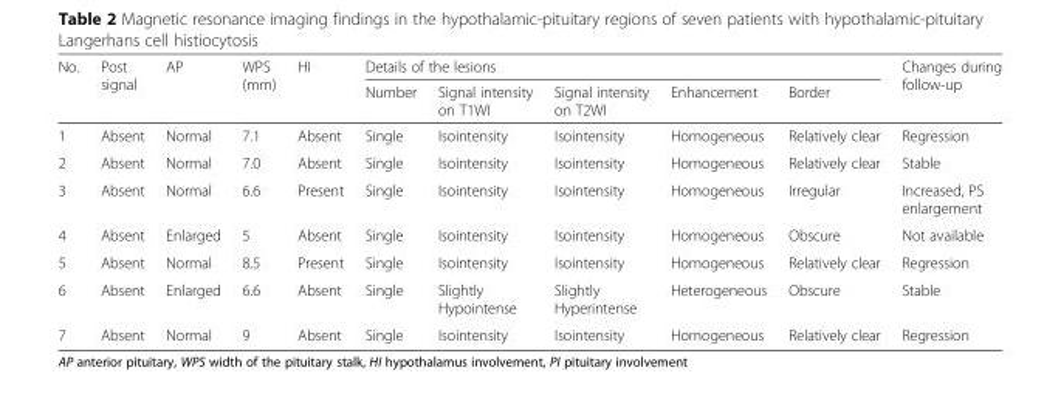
<table><thead><tr><td rowspan="2">No.</td><td rowspan="2">Post signal</td><td rowspan="2">AP</td><td rowspan="2">WPS (mm)</td><td rowspan="2">HI</td><td colspan="5">Details of the lesions</td><td rowspan="2">Changes during follow-up</td></tr><tr><td>Number</td><td>Signal intensity on T1WI</td><td>Signal intensity on T2WI</td><td>Enhancement</td><td>Border</td></tr></thead><tbody><tr><td>1</td><td>Absent</td><td>Normal</td><td>7.1</td><td>Absent</td><td>Single</td><td>Isointensity</td><td>Isointensity</td><td>Homogeneous</td><td>Relatively clear</td><td>Regression</td></tr><tr><td>2</td><td>Absent</td><td>Normal</td><td>7.0</td><td>Absent</td><td>Single</td><td>Isointensity</td><td>Isointensity</td><td>Homogeneous</td><td>Relatively clear</td><td>Stable</td></tr><tr><td>3</td><td>Absent</td><td>Normal</td><td>6.6</td><td>Present</td><td>Single</td><td>Isointensity</td><td>Isointensity</td><td>Homogeneous</td><td>Irregular</td><td>Increased, PS enlargement</td></tr><tr><td>4</td><td>Absent</td><td>Enlarged</td><td>5</td><td>Absent</td><td>Single</td><td>Isointensity</td><td>Isointensity</td><td>Homogeneous</td><td>Obscure</td><td>Not available</td></tr><tr><td>5</td><td>Absent</td><td>Normal</td><td>8.5</td><td>Present</td><td>Single</td><td>Isointensity</td><td>Isointensity</td><td>Homogeneous</td><td>Relatively clear</td><td>Regression</td></tr><tr><td>6</td><td>Absent</td><td>Enlarged</td><td>6.6</td><td>Absent</td><td>Single</td><td>Slightly Hypointense</td><td>Slightly Hyperintense</td><td>Heterogeneous</td><td>Obscure</td><td>Stable</td></tr><tr><td>7</td><td>Absent</td><td>Normal</td><td>9</td><td>Absent</td><td>Single</td><td>Isointensity</td><td>Isointensity</td><td>Homogeneous</td><td>Relatively clear</td><td>Regression</td></tr></tbody></table>